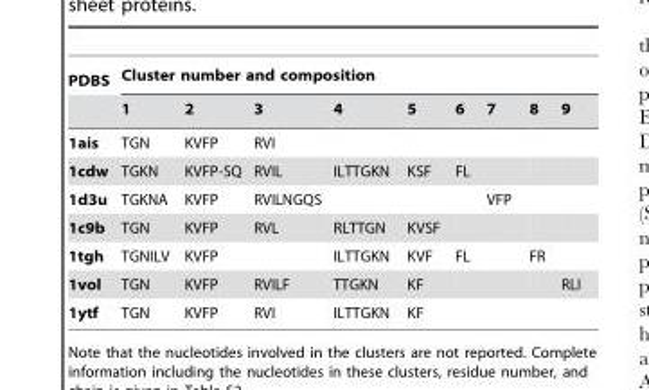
<table><thead><tr><td rowspan="2">PDBS</td><td colspan="9">Cluster number and composition</td></tr><tr><td>1</td><td>2</td><td>3</td><td>4</td><td>5</td><td>6</td><td>7</td><td>8</td><td>9</td></tr></thead><tbody><tr><td>1ais</td><td>TGN</td><td>KVFP</td><td>RVI</td><td></td><td></td><td></td><td></td><td></td><td></td></tr><tr><td>1cdw</td><td>TGKN</td><td>KVFP-SQ</td><td>RVIL</td><td>ILTTGKN</td><td>KSF</td><td>FL</td><td></td><td></td><td></td></tr><tr><td>1d3u</td><td>TGKNA</td><td>KVFP</td><td>RVILNGQS</td><td></td><td></td><td></td><td>VFP</td><td></td><td></td></tr><tr><td>1c9b</td><td>TGN</td><td>KVFP</td><td>RVL</td><td>RLTTGN</td><td>KVSF</td><td></td><td></td><td></td><td></td></tr><tr><td>1tgh</td><td>TGNILV</td><td>KVFP</td><td></td><td>ILTTGKN</td><td>KVF</td><td>FL</td><td></td><td>FR</td><td></td></tr><tr><td>1vol</td><td>TGN</td><td>KVFP</td><td>RVILF</td><td>TTGKN</td><td>KF</td><td></td><td></td><td></td><td>RLI</td></tr><tr><td>1ytf</td><td>TGN</td><td>KVFP</td><td>RVI</td><td>ILTTGKN</td><td>KF</td><td></td><td></td><td></td><td></td></tr></tbody></table>